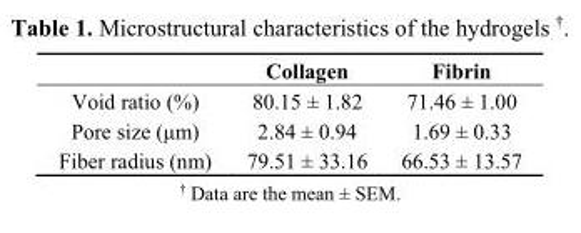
<table><thead><tr><td></td><td>Collagen</td><td>Fibrin</td></tr></thead><tbody><tr><td>Void ratio (%)</td><td>80.15 ± 1.82</td><td>71.46 ± 1.00</td></tr><tr><td>Pore size (μm)</td><td>2.84 ± 0.94</td><td>1.69 ± 0.33</td></tr><tr><td>Fiber radius (nm)</td><td>79.51 ± 33.16</td><td>66.53 ± 13.57</td></tr></tbody></table>